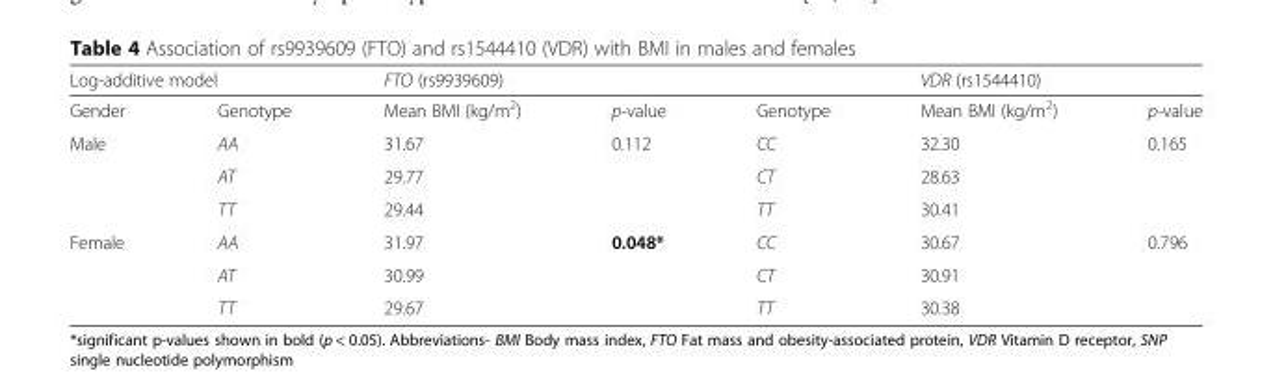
<table><thead><tr><td colspan="2">Log-additive model</td><td colspan="3">FTO (rs9939609)</td><td colspan="2">VDR (rs1544410)</td></tr><tr><td>Gender</td><td>Genotype</td><td>Mean BMI (kg/m<sup>2</sup>)</td><td>p-value</td><td>Genotype</td><td>Mean BMI (kg/m<sup>2</sup>)</td><td>p-value</td></tr></thead><tbody><tr><td rowspan="3">Male</td><td>AA</td><td>31.67</td><td rowspan="3">0.112</td><td>CC</td><td>32.30</td><td rowspan="3">0.165</td></tr><tr><td>AT</td><td>29.77</td><td>CT</td><td>28.63</td></tr><tr><td>TT</td><td>29.44</td><td>TT</td><td>30.41</td></tr><tr><td rowspan="3">Female</td><td>AA</td><td>31.97</td><td rowspan="3">0.048*</td><td>CC</td><td>30.67</td><td rowspan="3">0.796</td></tr><tr><td>AT</td><td>30.99</td><td>CT</td><td>30.91</td></tr><tr><td>TT</td><td>29.67</td><td>TT</td><td>30.38</td></tr></tbody></table>